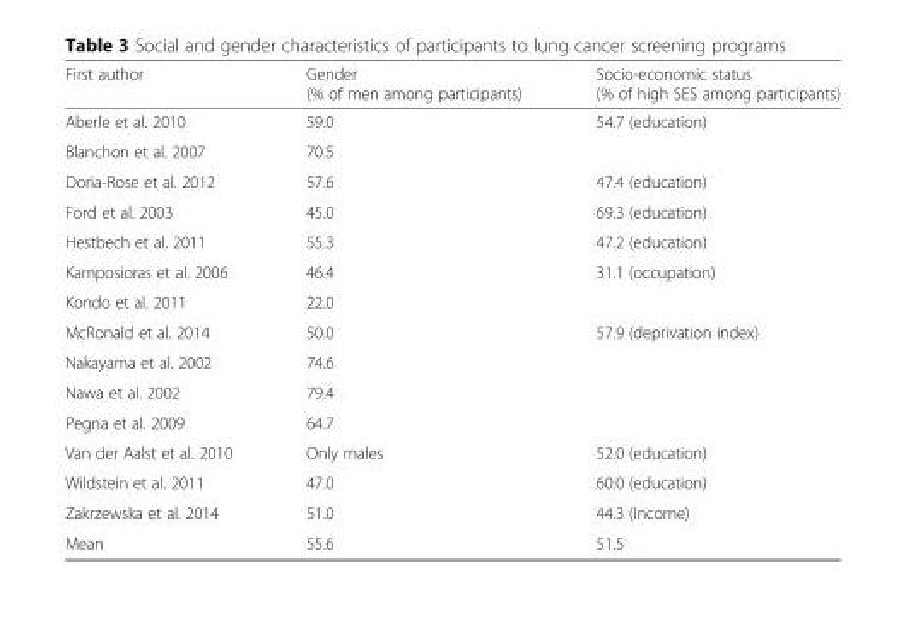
<table><thead><tr><td>First author</td><td>Gender (% of men among participants)</td><td>Socio-economic status (% of high SES among participants)</td></tr></thead><tbody><tr><td>Aberle et al. 2010</td><td>59.0</td><td>54.7 (education)</td></tr><tr><td>Blanchon et al. 2007</td><td>70.5</td><td></td></tr><tr><td>Doria-Rose et al. 2012</td><td>57.6</td><td>47.4 (education)</td></tr><tr><td>Ford et al. 2003</td><td>45.0</td><td>69.3 (education)</td></tr><tr><td>Hestbech et al. 2011</td><td>55.3</td><td>47.2 (education)</td></tr><tr><td>Kamposioras et al. 2006</td><td>46.4</td><td>31.1 (occupation)</td></tr><tr><td>Kondo et al. 2011</td><td>22.0</td><td></td></tr><tr><td>McRonald et al. 2014</td><td>50.0</td><td>57.9 (deprivation index)</td></tr><tr><td>Nakayama et al. 2002</td><td>74.6</td><td></td></tr><tr><td>Nawa et al. 2002</td><td>79.4</td><td></td></tr><tr><td>Pegna et al. 2009</td><td>64.7</td><td></td></tr><tr><td>Van der Aalst et al. 2010</td><td>Only males</td><td>52.0 (education)</td></tr><tr><td>Wildstein et al. 2011</td><td>47.0</td><td>60.0 (education)</td></tr><tr><td>Zakrzewska et al. 2014</td><td>51.0</td><td>44.3 (Income)</td></tr><tr><td>Mean</td><td>55.6</td><td>51.5</td></tr></tbody></table>